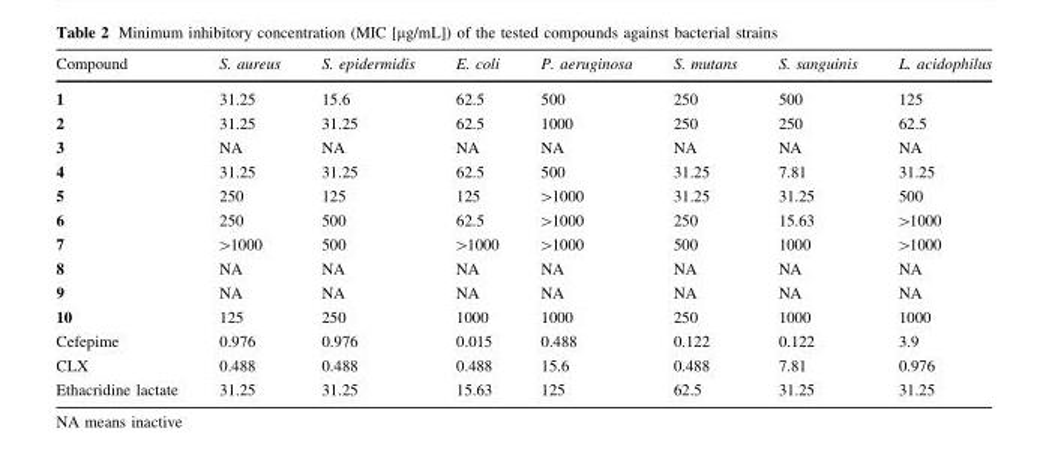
<table><thead><tr><td>Compound</td><td>S. aureus</td><td>S. epidermidis</td><td>E. coli</td><td>P. aeruginosa</td><td>S. mutans</td><td>S. sanguinis</td><td>L. acidophilus</td></tr></thead><tbody><tr><td>1</td><td>31.25</td><td>15.6</td><td>62.5</td><td>500</td><td>250</td><td>500</td><td>125</td></tr><tr><td>2</td><td>31.25</td><td>31.25</td><td>62.5</td><td>1000</td><td>250</td><td>250</td><td>62.5</td></tr><tr><td>3</td><td>NA</td><td>NA</td><td>NA</td><td>NA</td><td>NA</td><td>NA</td><td>NA</td></tr><tr><td>4</td><td>31.25</td><td>31.25</td><td>62.5</td><td>500</td><td>31.25</td><td>7.81</td><td>31.25</td></tr><tr><td>5</td><td>250</td><td>125</td><td>125</td><td>&gt;1000</td><td>31.25</td><td>31.25</td><td>500</td></tr><tr><td>6</td><td>250</td><td>500</td><td>62.5</td><td>&gt;1000</td><td>250</td><td>15.63</td><td>&gt;1000</td></tr><tr><td>7</td><td>&gt;1000</td><td>500</td><td>&gt;1000</td><td>&gt;1000</td><td>500</td><td>1000</td><td>&gt;1000</td></tr><tr><td>8</td><td>NA</td><td>NA</td><td>NA</td><td>NA</td><td>NA</td><td>NA</td><td>NA</td></tr><tr><td>9</td><td>NA</td><td>NA</td><td>NA</td><td>NA</td><td>NA</td><td>NA</td><td>NA</td></tr><tr><td>10</td><td>125</td><td>250</td><td>1000</td><td>1000</td><td>250</td><td>1000</td><td>1000</td></tr><tr><td>Cefepime</td><td>0.976</td><td>0.976</td><td>0.015</td><td>0.488</td><td>0.122</td><td>0.122</td><td>3.9</td></tr><tr><td>CLX</td><td>0.488</td><td>0.488</td><td>0.488</td><td>15.6</td><td>0.488</td><td>7.81</td><td>0.976</td></tr><tr><td>Ethacridine lactate</td><td>31.25</td><td>31.25</td><td>15.63</td><td>125</td><td>62.5</td><td>31.25</td><td>31.25</td></tr></tbody></table>